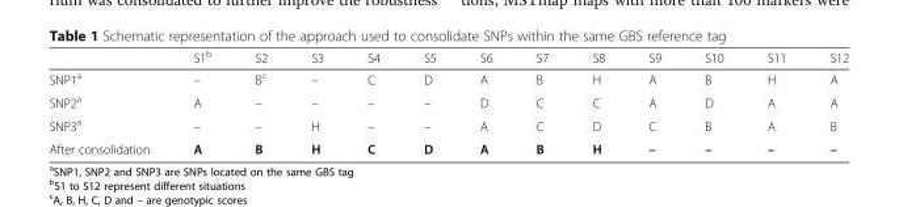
<table><thead><tr><td></td><td>S1<sup>b</sup></td><td>S2</td><td>S3</td><td>S4</td><td>S5</td><td>S6</td><td>S7</td><td>S8</td><td>S9</td><td>S10</td><td>S11</td><td>S12</td></tr></thead><tbody><tr><td>SNP1<sup>a</sup></td><td>–</td><td>B<sup>c</sup></td><td>–</td><td>C</td><td>D</td><td>A</td><td>B</td><td>H</td><td>A</td><td>B</td><td>H</td><td>A</td></tr><tr><td>SNP2<sup>a</sup></td><td>A</td><td>–</td><td>–</td><td>–</td><td>–</td><td>D</td><td>C</td><td>C</td><td>A</td><td>D</td><td>A</td><td>A</td></tr><tr><td>SNP3<sup>a</sup></td><td>–</td><td>–</td><td>H</td><td>–</td><td>–</td><td>A</td><td>C</td><td>D</td><td>C</td><td>B</td><td>A</td><td>B</td></tr><tr><td>After consolidation</td><td>A</td><td>B</td><td>H</td><td>C</td><td>D</td><td>A</td><td>B</td><td>H</td><td>–</td><td>–</td><td>–</td><td>–</td></tr></tbody></table>